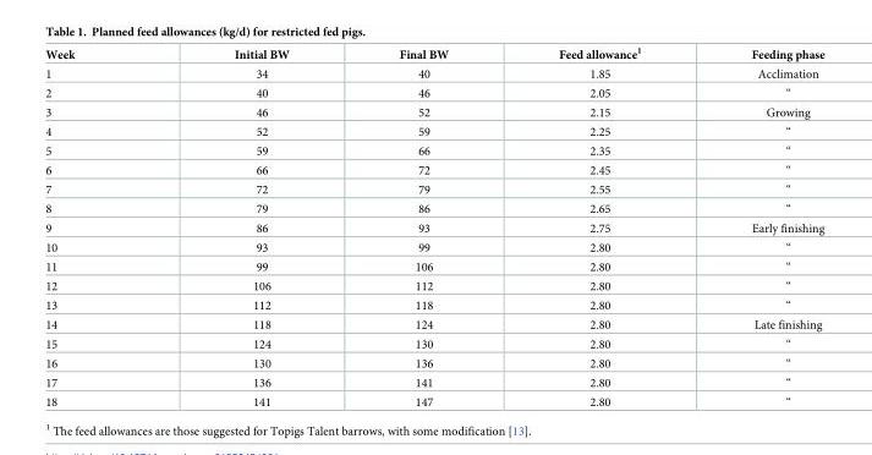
<table><thead><tr><td>Week</td><td>Initial BW</td><td>Final BW</td><td>Feed allowance<sup>1</sup></td><td>Feeding phase</td></tr></thead><tbody><tr><td>1</td><td>34</td><td>40</td><td>1.85</td><td>Acclimation</td></tr><tr><td>2</td><td>40</td><td>46</td><td>2.05</td><td>“</td></tr><tr><td>3</td><td>46</td><td>52</td><td>2.15</td><td>Growing</td></tr><tr><td>4</td><td>52</td><td>59</td><td>2.25</td><td>“</td></tr><tr><td>5</td><td>59</td><td>66</td><td>2.35</td><td>“</td></tr><tr><td>6</td><td>66</td><td>72</td><td>2.45</td><td>“</td></tr><tr><td>7</td><td>72</td><td>79</td><td>2.55</td><td>“</td></tr><tr><td>8</td><td>79</td><td>86</td><td>2.65</td><td>“</td></tr><tr><td>9</td><td>86</td><td>93</td><td>2.75</td><td>Early finishing</td></tr><tr><td>10</td><td>93</td><td>99</td><td>2.80</td><td>“</td></tr><tr><td>11</td><td>99</td><td>106</td><td>2.80</td><td>“</td></tr><tr><td>12</td><td>106</td><td>112</td><td>2.80</td><td>“</td></tr><tr><td>13</td><td>112</td><td>118</td><td>2.80</td><td>“</td></tr><tr><td>14</td><td>118</td><td>124</td><td>2.80</td><td>Late finishing</td></tr><tr><td>15</td><td>124</td><td>130</td><td>2.80</td><td>“</td></tr><tr><td>16</td><td>130</td><td>136</td><td>2.80</td><td>“</td></tr><tr><td>17</td><td>136</td><td>141</td><td>2.80</td><td>“</td></tr><tr><td>18</td><td>141</td><td>147</td><td>2.80</td><td>“</td></tr></tbody></table>